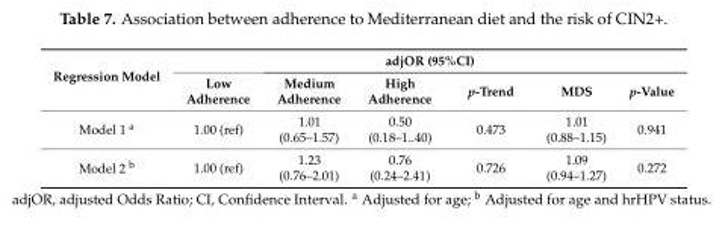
<table><thead><tr><td rowspan="2">Regression Model</td><td colspan="6">adjOR (95%CI)</td></tr><tr><td>Low Adherence</td><td>Medium Adherence</td><td>High Adherence</td><td>p-Trend</td><td>MDS</td><td>p-Value</td></tr></thead><tbody><tr><td>Model 1 <sup>a</sup></td><td>1.00 (ref)</td><td>1.01 (0.65–1.57)</td><td>0.50 (0.18–1..40)</td><td>0.473</td><td>1.01 (0.88–1.15)</td><td>0.941</td></tr><tr><td>Model 2 <sup>b</sup></td><td>1.00 (ref)</td><td>1.23 (0.76–2.01)</td><td>0.76 (0.24–2.41)</td><td>0.726</td><td>1.09 (0.94–1.27)</td><td>0.272</td></tr></tbody></table>